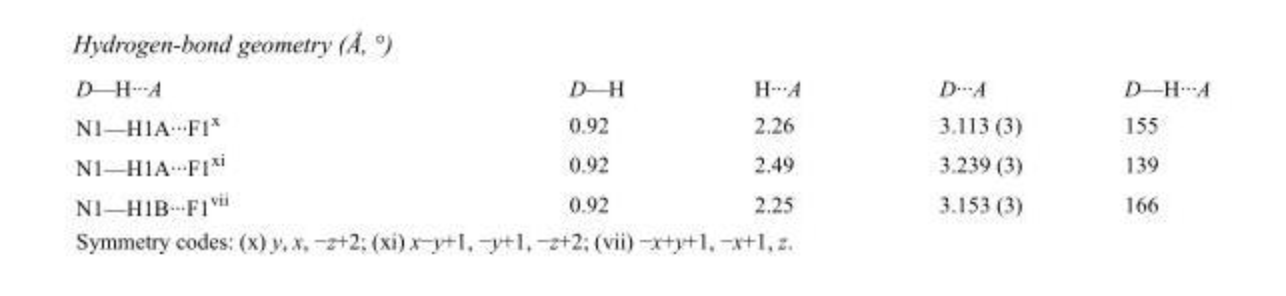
<table><tbody><tr><td>D—H···A</td><td>D—H</td><td>H···A</td><td>D···A</td><td>D—H···A</td></tr><tr><td>N1—H1A···F1<sup>x</sup></td><td>0.92</td><td>2.26</td><td>3.113 (3)</td><td>155</td></tr><tr><td>N1—H1A···F1<sup>xi</sup></td><td>0.92</td><td>2.49</td><td>3.239 (3)</td><td>139</td></tr><tr><td>N1—H1B···F1<sup>vii</sup></td><td>0.92</td><td>2.25</td><td>3.153 (3)</td><td>166</td></tr></tbody></table>